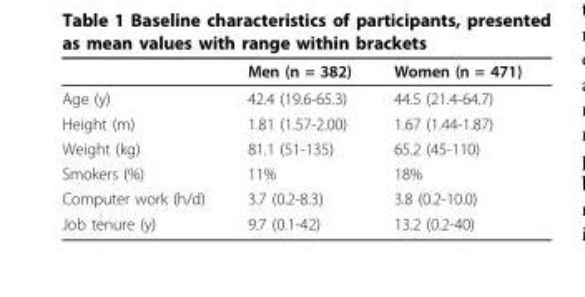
<table><thead><tr><td></td><td>Men (n = 382)</td><td>Women (n = 471)</td></tr></thead><tbody><tr><td>Age (y)</td><td>42.4 (19.6-65.3)</td><td>44.5 (21.4-64.7)</td></tr><tr><td>Height (m)</td><td>1.81 (1.57-2.00)</td><td>1.67 (1.44-1.87)</td></tr><tr><td>Weight (kg)</td><td>81.1 (51-135)</td><td>65.2 (45-110)</td></tr><tr><td>Smokers (%)</td><td>11%</td><td>18%</td></tr><tr><td>Computer work (h/d)</td><td>3.7 (0.2-8.3)</td><td>3.8 (0.2-10.0)</td></tr><tr><td>Job tenure (y)</td><td>9.7 (0.1-42)</td><td>13.2 (0.2-40)</td></tr></tbody></table>